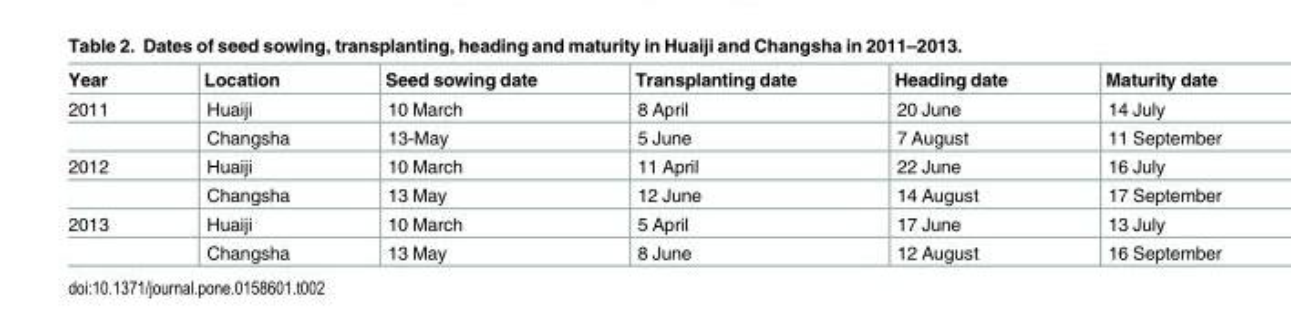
<table><thead><tr><td>Year</td><td>Location</td><td>Seed sowing date</td><td>Transplanting date</td><td>Heading date</td><td>Maturity date</td></tr></thead><tbody><tr><td rowspan="2">2011</td><td>Huaiji</td><td>10 March</td><td>8 April</td><td>20 June</td><td>14 July</td></tr><tr><td>Changsha</td><td>13-May</td><td>5 June</td><td>7 August</td><td>11 September</td></tr><tr><td rowspan="2">2012</td><td>Huaiji</td><td>10 March</td><td>11 April</td><td>22 June</td><td>16 July</td></tr><tr><td>Changsha</td><td>13 May</td><td>12 June</td><td>14 August</td><td>17 September</td></tr><tr><td rowspan="2">2013</td><td>Huaiji</td><td>10 March</td><td>5 April</td><td>17 June</td><td>13 July</td></tr><tr><td>Changsha</td><td>13 May</td><td>8 June</td><td>12 August</td><td>16 September</td></tr></tbody></table>